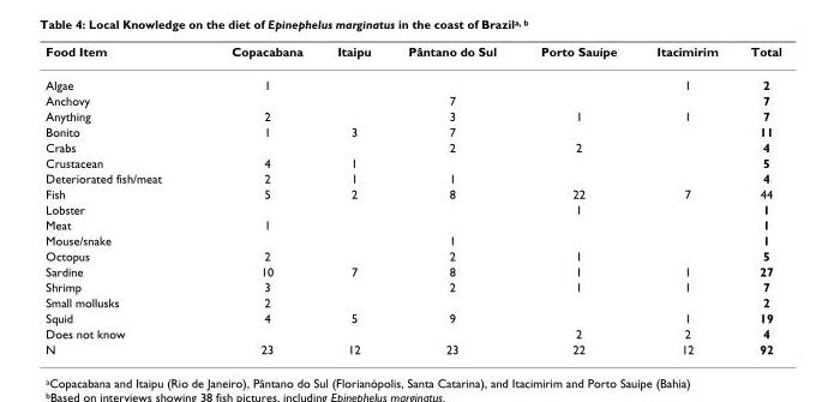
<table><thead><tr><td>Food Item</td><td>Copacabana</td><td>Itaipu</td><td>Pântano do Sul</td><td>Porto Sauípe</td><td>Itacimirim</td><td>Total</td></tr></thead><tbody><tr><td>Algae</td><td>1</td><td></td><td></td><td></td><td>1</td><td>2</td></tr><tr><td>Anchovy</td><td></td><td></td><td>7</td><td></td><td></td><td>7</td></tr><tr><td>Anything</td><td>2</td><td></td><td>3</td><td>1</td><td>1</td><td>7</td></tr><tr><td>Bonito</td><td>1</td><td>3</td><td>7</td><td></td><td></td><td>11</td></tr><tr><td>Crabs</td><td></td><td></td><td>2</td><td>2</td><td></td><td>4</td></tr><tr><td>Crustacean</td><td>4</td><td>1</td><td></td><td></td><td></td><td>5</td></tr><tr><td>Deteriorated fish/meat</td><td>2</td><td>1</td><td>1</td><td></td><td></td><td>4</td></tr><tr><td>Fish</td><td>5</td><td>2</td><td>8</td><td>22</td><td>7</td><td>44</td></tr><tr><td>Lobster</td><td></td><td></td><td></td><td>1</td><td></td><td>1</td></tr><tr><td>Meat</td><td>1</td><td></td><td></td><td></td><td></td><td>1</td></tr><tr><td>Mouse/snake</td><td></td><td></td><td>1</td><td></td><td></td><td>1</td></tr><tr><td>Octopus</td><td>2</td><td></td><td>2</td><td>1</td><td></td><td>5</td></tr><tr><td>Sardine</td><td>10</td><td>7</td><td>8</td><td>1</td><td>1</td><td>27</td></tr><tr><td>Shrimp</td><td>3</td><td></td><td>2</td><td>1</td><td>1</td><td>7</td></tr><tr><td>Small mollusks</td><td>2</td><td></td><td></td><td></td><td></td><td>2</td></tr><tr><td>Squid</td><td>4</td><td>5</td><td>9</td><td></td><td>1</td><td>19</td></tr><tr><td>Does not know</td><td></td><td></td><td></td><td>2</td><td>2</td><td>4</td></tr><tr><td>N</td><td>23</td><td>12</td><td>23</td><td>22</td><td>12</td><td>92</td></tr></tbody></table>